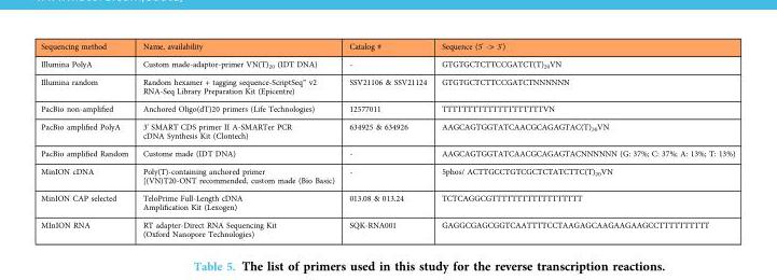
<table><thead><tr><td>Sequencing method</td><td>Name, availability</td><td>Catalog #</td><td>Sequence (5&#x27; -&gt; 3&#x27;)</td></tr></thead><tbody><tr><td>Illumina PolyA</td><td>Custom made-adaptor-primer VN(T)<sub>20</sub> (IDT DNA)</td><td>-</td><td>GTGTGCTCTTCCGATCT(T)<sub>20</sub>VN</td></tr><tr><td>Illumina random</td><td>Random hexamer + tagging sequence-ScriptSeq™ v2 RNA-Seq Library Preparation Kit (Epicentre)</td><td>SSV21106 &amp; SSV21124</td><td>GTGTGCTCTTCCGATCTNNNNNN</td></tr><tr><td>PacBio non-amplified</td><td>Anchored Oligo(dT)20 primers (Life Technologies)</td><td>12577011</td><td>TTTTTTTTTTTTTTTTTTTTVN</td></tr><tr><td>PacBio amplified PolyA</td><td>3&#x27; SMART CDS primer II A-SMARTer PCR cDNA Synthesis Kit (Clontech)</td><td>634925 &amp; 634926</td><td>AAGCAGTGGTATCAACGCAGAGTAC(T)<sub>30</sub>VN</td></tr><tr><td>PacBio amplified Random</td><td>Custome made (IDT DNA)</td><td>-</td><td>AAGCAGTGGTATCAACGCAGAGTACNNNNNN (G: 37%; C: 37%; A: 13%; T: 13%)</td></tr><tr><td>MinION cDNA</td><td>Poly(T)-containing anchored primer [(VN)T20-ONT recommended, custom made (Bio Basic)</td><td>-</td><td>5phos/ ACTTGCCTGTCGCTCTATCTTC(T)<sub>20</sub>VN</td></tr><tr><td>MinION CAP selected</td><td>TeloPrime Full-Length cDNA Amplification Kit (Lexogen)</td><td>013.08 &amp; 013.24</td><td>TCTCAGGCGTTTTTTTTTTTTTTTTTT</td></tr><tr><td>MInION RNA</td><td>RT adapter-Direct RNA Sequencing Kit (Oxford Nanopore Technologies)</td><td>SQK-RNA001</td><td>GAGGCGAGCGGTCAATTTTCCTAAGAGCAAGAAGAAGCCTTTTTTTTTT</td></tr></tbody></table>